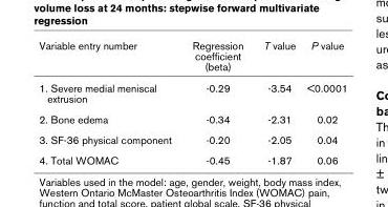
<table><thead><tr><td>Variable entry number</td><td>Regression coefficient (beta)</td><td>T value</td><td>P value</td></tr></thead><tbody><tr><td>1. Severe medial meniscal extrusion</td><td>-0.29</td><td>-3.54</td><td>&lt;0.0001</td></tr><tr><td>2. Bone edema</td><td>-0.34</td><td>-2.31</td><td>0.02</td></tr><tr><td>3. SF-36 physical component</td><td>-0.20</td><td>-2.05</td><td>0.04</td></tr><tr><td>4. Total WOMAC</td><td>-0.45</td><td>-1.87</td><td>0.06</td></tr></tbody></table>